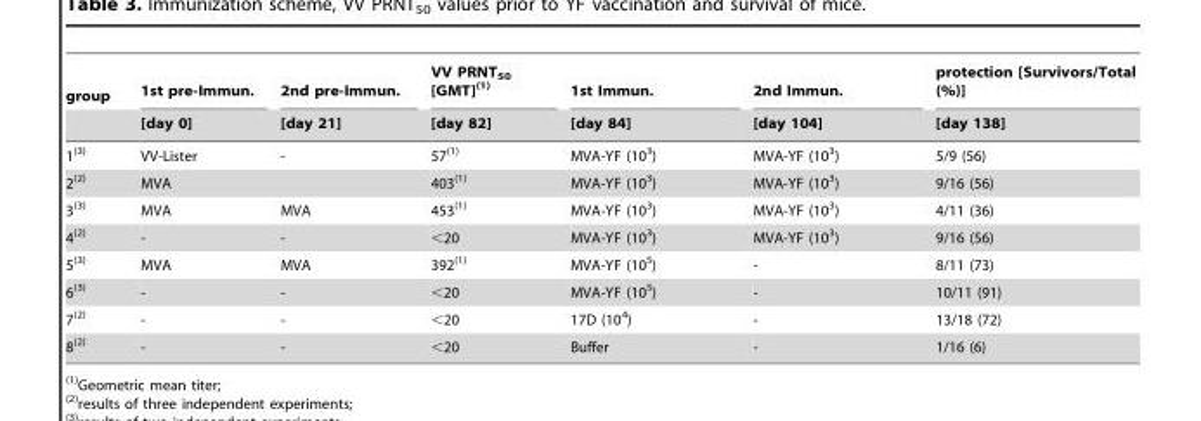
<table><thead><tr><td rowspan="2">group</td><td rowspan="2">1st pre-Immun. [day 0]</td><td rowspan="2">2nd pre-Immun. [day 21]</td><td rowspan="2">VV PRNT<sub>50</sub> [GMT](1) [day 82]</td><td rowspan="2">1st Immun. [day 84]</td><td rowspan="2">2nd Immun. [day 104]</td><td rowspan="2">protection [Survivors/Total (%)] [day 138]</td></tr><tr></tr></thead><tbody><tr><td>1(3)</td><td>VV-Lister</td><td>-</td><td>57(1)</td><td>MVA-YF (10<sup>3</sup>)</td><td>MVA-YF (10<sup>3</sup>)</td><td>5/9 (56)</td></tr><tr><td>2(2)</td><td>MVA</td><td></td><td>403(1)</td><td>MVA-YF (10<sup>3</sup>)</td><td>MVA-YF (10<sup>3</sup>)</td><td>9/16 (56)</td></tr><tr><td>3(3)</td><td>MVA</td><td>MVA</td><td>453(1)</td><td>MVA-YF (10<sup>3</sup>)</td><td>MVA-YF (10<sup>3</sup>)</td><td>4/11 (36)</td></tr><tr><td>4(2)</td><td>-</td><td>-</td><td>&lt;20</td><td>MVA-YF (10<sup>3</sup>)</td><td>MVA-YF (10<sup>3</sup>)</td><td>9/16 (56)</td></tr><tr><td>5(3)</td><td>MVA</td><td>MVA</td><td>392(1)</td><td>MVA-YF (10<sup>5</sup>)</td><td>-</td><td>8/11 (73)</td></tr><tr><td>6(3)</td><td>-</td><td>-</td><td>&lt;20</td><td>MVA-YF (10<sup>5</sup>)</td><td>-</td><td>10/11 (91)</td></tr><tr><td>7(2)</td><td>-</td><td>-</td><td>&lt;20</td><td>17D (10<sup>4</sup>)</td><td>-</td><td>13/18 (72)</td></tr><tr><td>8(2)</td><td>-</td><td>-</td><td>&lt;20</td><td>Buffer</td><td>-</td><td>1/16 (6)</td></tr></tbody></table>